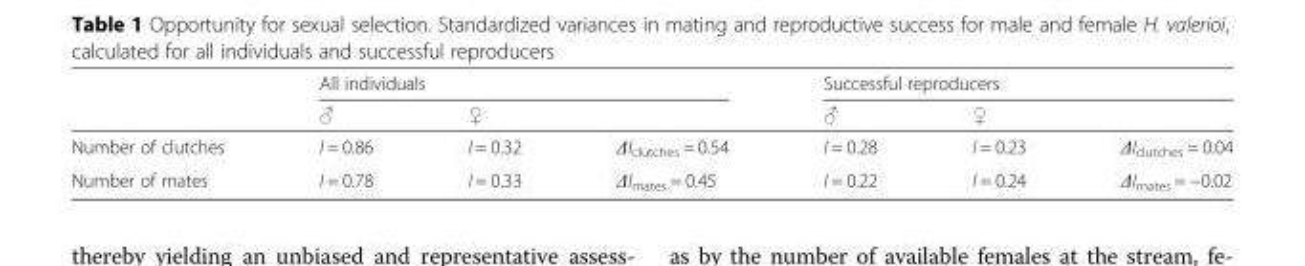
<table><thead><tr><td rowspan="2"></td><td colspan="3">All individuals</td><td colspan="3">Successful reproducers</td></tr><tr><td>♂</td><td>♀</td><td></td><td>♂</td><td>♀</td><td></td></tr></thead><tbody><tr><td>Number of clutches</td><td>I = 0.86</td><td>I = 0.32</td><td>ΔI<sub>clutches</sub> = 0.54</td><td>I = 0.28</td><td>I = 0.23</td><td>ΔI<sub>clutches</sub> = 0.04</td></tr><tr><td>Number of mates</td><td>I = 0.78</td><td>I = 0.33</td><td>ΔI<sub>mates</sub> = 0.45</td><td>I = 0.22</td><td>I = 0.24</td><td>ΔI<sub>mates</sub> = −0.02</td></tr></tbody></table>